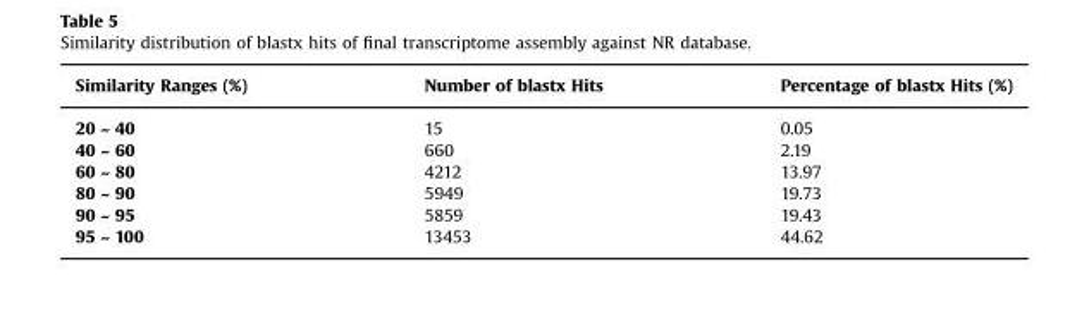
<table><thead><tr><td>Similarity Ranges (%)</td><td>Number of blastx Hits</td><td>Percentage of blastx Hits (%)</td></tr></thead><tbody><tr><td>20 ~ 40</td><td>15</td><td>0.05</td></tr><tr><td>40 ~ 60</td><td>660</td><td>2.19</td></tr><tr><td>60 ~ 80</td><td>4212</td><td>13.97</td></tr><tr><td>80 ~ 90</td><td>5949</td><td>19.73</td></tr><tr><td>90 ~ 95</td><td>5859</td><td>19.43</td></tr><tr><td>95 ~ 100</td><td>13453</td><td>44.62</td></tr></tbody></table>